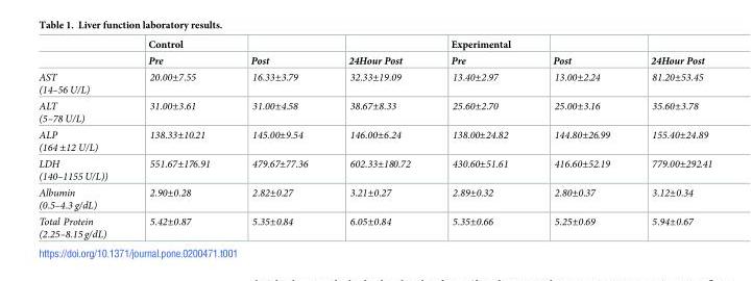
<table><thead><tr><td rowspan="2"></td><td rowspan="2">Control Pre</td><td rowspan="2">Post</td><td rowspan="2">24Hour Post</td><td rowspan="2">Experimental Pre</td><td rowspan="2">Post</td><td rowspan="2">24Hour Post</td></tr><tr></tr></thead><tbody><tr><td>AST (14–56 U/L)</td><td>20.00±7.55</td><td>16.33±3.79</td><td>32.33±19.09</td><td>13.40±2.97</td><td>13.00±2.24</td><td>81.20±53.45</td></tr><tr><td>ALT (5–78 U/L)</td><td>31.00±3.61</td><td>31.00±4.58</td><td>38.67±8.33</td><td>25.60±2.70</td><td>25.00±3.16</td><td>35.60±3.78</td></tr><tr><td>ALP (164 ±12 U/L)</td><td>138.33±10.21</td><td>145.00±9.54</td><td>146.00±6.24</td><td>138.00±24.82</td><td>144.80±26.99</td><td>155.40±24.89</td></tr><tr><td>LDH (140–1155 U/L))</td><td>551.67±176.91</td><td>479.67±77.36</td><td>602.33±180.72</td><td>430.60±51.61</td><td>416.60±52.19</td><td>779.00±292.41</td></tr><tr><td>Albumin (0.5–4.3 g/dL)</td><td>2.90±0.28</td><td>2.82±0.27</td><td>3.21±0.27</td><td>2.89±0.32</td><td>2.80±0.37</td><td>3.12±0.34</td></tr><tr><td>Total Protein (2.25–8.15 g/dL)</td><td>5.42±0.87</td><td>5.35±0.84</td><td>6.05±0.84</td><td>5.35±0.66</td><td>5.25±0.69</td><td>5.94±0.67</td></tr></tbody></table>